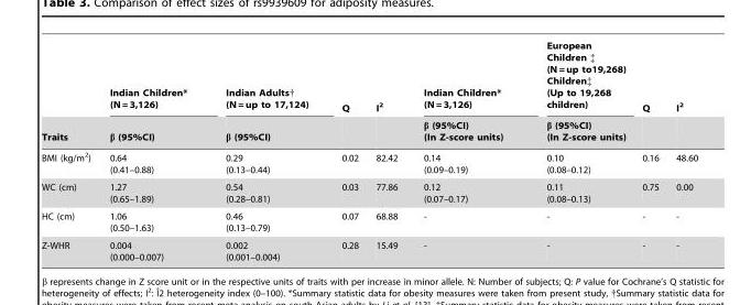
<table><thead><tr><td rowspan="2">Traits</td><td rowspan="2">Indian Children* (N = 3,126) β (95%CI)</td><td rowspan="2">Indian Adults† (N = up to 17,124) β (95%CI)</td><td rowspan="2">Q</td><td rowspan="2">I<sup>2</sup></td><td rowspan="2">Indian Children* (N = 3,126) β (95%CI) (In Z-score units)</td><td rowspan="2">European Children ‡ (N = up to19,268) Children‡ (Up to 19,268 children) β (95%CI) (In Z-score units)</td><td rowspan="2">Q</td><td rowspan="2">I<sup>2</sup></td></tr><tr></tr></thead><tbody><tr><td>BMI (kg/m<sup>2</sup>)</td><td>0.64 (0.41–0.88)</td><td>0.29 (0.13–0.44)</td><td>0.02</td><td>82.42</td><td>0.14 (0.09–0.19)</td><td>0.10 (0.08–0.12)</td><td>0.16</td><td>48.60</td></tr><tr><td>WC (cm)</td><td>1.27 (0.65–1.89)</td><td>0.54 (0.28–0.81)</td><td>0.03</td><td>77.86</td><td>0.12 (0.07–0.17)</td><td>0.11 (0.08–0.13)</td><td>0.75</td><td>0.00</td></tr><tr><td>HC (cm)</td><td>1.06 (0.50–1.63)</td><td>0.46 (0.13–0.79)</td><td>0.07</td><td>68.88</td><td>-</td><td>-</td><td>-</td><td>-</td></tr><tr><td>Z-WHR</td><td>0.004 (0.000–0.007)</td><td>0.002 (0.001–0.004)</td><td>0.28</td><td>15.49</td><td>-</td><td>-</td><td>-</td><td>-</td></tr></tbody></table>